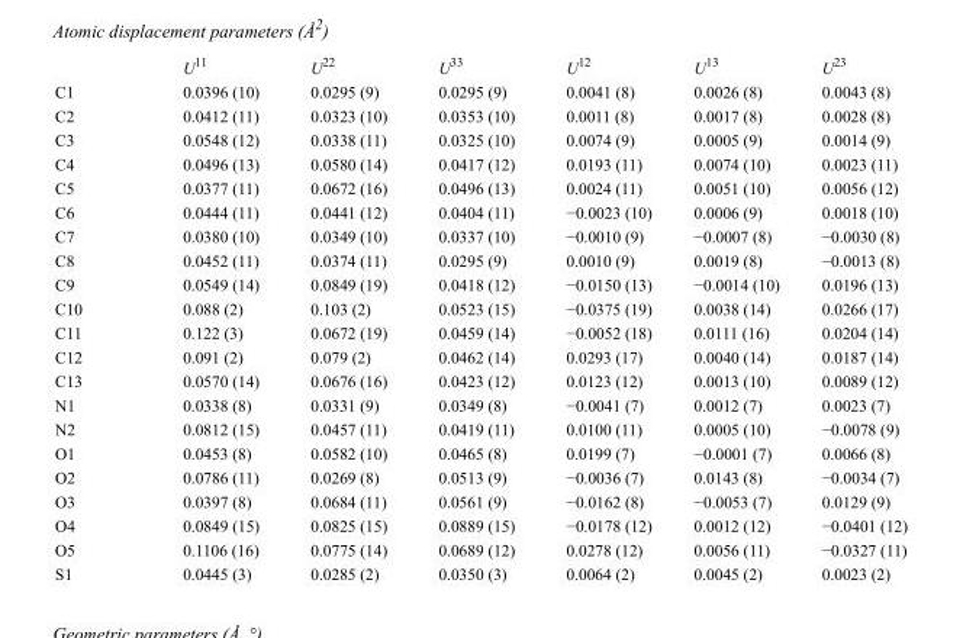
<table><thead><tr><td></td><td>U<sup>11</sup></td><td>U<sup>22</sup></td><td>U<sup>33</sup></td><td>U<sup>12</sup></td><td>U<sup>13</sup></td><td>U<sup>23</sup></td></tr></thead><tbody><tr><td>C1</td><td>0.0396 (10)</td><td>0.0295 (9)</td><td>0.0295 (9)</td><td>0.0041 (8)</td><td>0.0026 (8)</td><td>0.0043 (8)</td></tr><tr><td>C2</td><td>0.0412 (11)</td><td>0.0323 (10)</td><td>0.0353 (10)</td><td>0.0011 (8)</td><td>0.0017 (8)</td><td>0.0028 (8)</td></tr><tr><td>C3</td><td>0.0548 (12)</td><td>0.0338 (11)</td><td>0.0325 (10)</td><td>0.0074 (9)</td><td>0.0005 (9)</td><td>0.0014 (9)</td></tr><tr><td>C4</td><td>0.0496 (13)</td><td>0.0580 (14)</td><td>0.0417 (12)</td><td>0.0193 (11)</td><td>0.0074 (10)</td><td>0.0023 (11)</td></tr><tr><td>C5</td><td>0.0377 (11)</td><td>0.0672 (16)</td><td>0.0496 (13)</td><td>0.0024 (11)</td><td>0.0051 (10)</td><td>0.0056 (12)</td></tr><tr><td>C6</td><td>0.0444 (11)</td><td>0.0441 (12)</td><td>0.0404 (11)</td><td>−0.0023 (10)</td><td>0.0006 (9)</td><td>0.0018 (10)</td></tr><tr><td>C7</td><td>0.0380 (10)</td><td>0.0349 (10)</td><td>0.0337 (10)</td><td>−0.0010 (9)</td><td>−0.0007 (8)</td><td>−0.0030 (8)</td></tr><tr><td>C8</td><td>0.0452 (11)</td><td>0.0374 (11)</td><td>0.0295 (9)</td><td>0.0010 (9)</td><td>0.0019 (8)</td><td>−0.0013 (8)</td></tr><tr><td>C9</td><td>0.0549 (14)</td><td>0.0849 (19)</td><td>0.0418 (12)</td><td>−0.0150 (13)</td><td>−0.0014 (10)</td><td>0.0196 (13)</td></tr><tr><td>C10</td><td>0.088 (2)</td><td>0.103 (2)</td><td>0.0523 (15)</td><td>−0.0375 (19)</td><td>0.0038 (14)</td><td>0.0266 (17)</td></tr><tr><td>C11</td><td>0.122 (3)</td><td>0.0672 (19)</td><td>0.0459 (14)</td><td>−0.0052 (18)</td><td>0.0111 (16)</td><td>0.0204 (14)</td></tr><tr><td>C12</td><td>0.091 (2)</td><td>0.079 (2)</td><td>0.0462 (14)</td><td>0.0293 (17)</td><td>0.0040 (14)</td><td>0.0187 (14)</td></tr><tr><td>C13</td><td>0.0570 (14)</td><td>0.0676 (16)</td><td>0.0423 (12)</td><td>0.0123 (12)</td><td>0.0013 (10)</td><td>0.0089 (12)</td></tr><tr><td>N1</td><td>0.0338 (8)</td><td>0.0331 (9)</td><td>0.0349 (8)</td><td>−0.0041 (7)</td><td>0.0012 (7)</td><td>0.0023 (7)</td></tr><tr><td>N2</td><td>0.0812 (15)</td><td>0.0457 (11)</td><td>0.0419 (11)</td><td>0.0100 (11)</td><td>0.0005 (10)</td><td>−0.0078 (9)</td></tr><tr><td>O1</td><td>0.0453 (8)</td><td>0.0582 (10)</td><td>0.0465 (8)</td><td>0.0199 (7)</td><td>−0.0001 (7)</td><td>0.0066 (8)</td></tr><tr><td>O2</td><td>0.0786 (11)</td><td>0.0269 (8)</td><td>0.0513 (9)</td><td>−0.0036 (7)</td><td>0.0143 (8)</td><td>−0.0034 (7)</td></tr><tr><td>O3</td><td>0.0397 (8)</td><td>0.0684 (11)</td><td>0.0561 (9)</td><td>−0.0162 (8)</td><td>−0.0053 (7)</td><td>0.0129 (9)</td></tr><tr><td>O4</td><td>0.0849 (15)</td><td>0.0825 (15)</td><td>0.0889 (15)</td><td>−0.0178 (12)</td><td>0.0012 (12)</td><td>−0.0401 (12)</td></tr><tr><td>O5</td><td>0.1106 (16)</td><td>0.0775 (14)</td><td>0.0689 (12)</td><td>0.0278 (12)</td><td>0.0056 (11)</td><td>−0.0327 (11)</td></tr><tr><td>S1</td><td>0.0445 (3)</td><td>0.0285 (2)</td><td>0.0350 (3)</td><td>0.0064 (2)</td><td>0.0045 (2)</td><td>0.0023 (2)</td></tr></tbody></table>